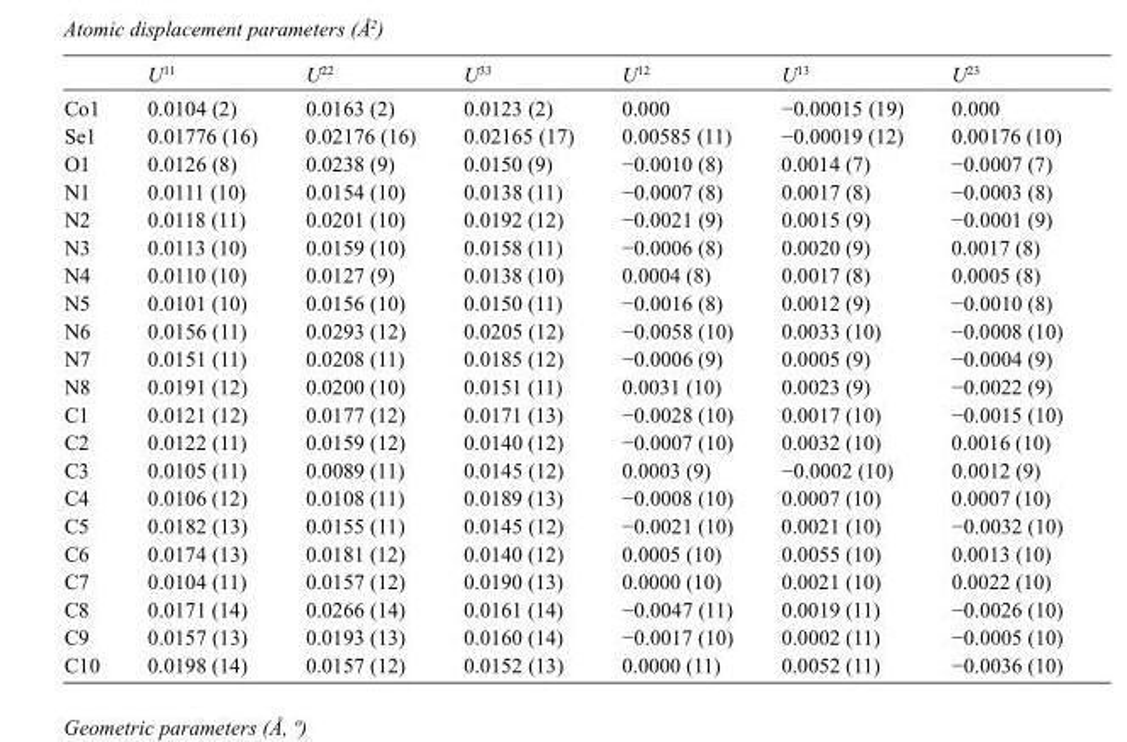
<table><thead><tr><td></td><td>U<sup>11</sup></td><td>U<sup>22</sup></td><td>U<sup>33</sup></td><td>U<sup>12</sup></td><td>U<sup>13</sup></td><td>U<sup>23</sup></td></tr></thead><tbody><tr><td>Co1</td><td>0.0104 (2)</td><td>0.0163 (2)</td><td>0.0123 (2)</td><td>0.000</td><td>−0.00015 (19)</td><td>0.000</td></tr><tr><td>Se1</td><td>0.01776 (16)</td><td>0.02176 (16)</td><td>0.02165 (17)</td><td>0.00585 (11)</td><td>−0.00019 (12)</td><td>0.00176 (10)</td></tr><tr><td>O1</td><td>0.0126 (8)</td><td>0.0238 (9)</td><td>0.0150 (9)</td><td>−0.0010 (8)</td><td>0.0014 (7)</td><td>−0.0007 (7)</td></tr><tr><td>N1</td><td>0.0111 (10)</td><td>0.0154 (10)</td><td>0.0138 (11)</td><td>−0.0007 (8)</td><td>0.0017 (8)</td><td>−0.0003 (8)</td></tr><tr><td>N2</td><td>0.0118 (11)</td><td>0.0201 (10)</td><td>0.0192 (12)</td><td>−0.0021 (9)</td><td>0.0015 (9)</td><td>−0.0001 (9)</td></tr><tr><td>N3</td><td>0.0113 (10)</td><td>0.0159 (10)</td><td>0.0158 (11)</td><td>−0.0006 (8)</td><td>0.0020 (9)</td><td>0.0017 (8)</td></tr><tr><td>N4</td><td>0.0110 (10)</td><td>0.0127 (9)</td><td>0.0138 (10)</td><td>0.0004 (8)</td><td>0.0017 (8)</td><td>0.0005 (8)</td></tr><tr><td>N5</td><td>0.0101 (10)</td><td>0.0156 (10)</td><td>0.0150 (11)</td><td>−0.0016 (8)</td><td>0.0012 (9)</td><td>−0.0010 (8)</td></tr><tr><td>N6</td><td>0.0156 (11)</td><td>0.0293 (12)</td><td>0.0205 (12)</td><td>−0.0058 (10)</td><td>0.0033 (10)</td><td>−0.0008 (10)</td></tr><tr><td>N7</td><td>0.0151 (11)</td><td>0.0208 (11)</td><td>0.0185 (12)</td><td>−0.0006 (9)</td><td>0.0005 (9)</td><td>−0.0004 (9)</td></tr><tr><td>N8</td><td>0.0191 (12)</td><td>0.0200 (10)</td><td>0.0151 (11)</td><td>0.0031 (10)</td><td>0.0023 (9)</td><td>−0.0022 (9)</td></tr><tr><td>C1</td><td>0.0121 (12)</td><td>0.0177 (12)</td><td>0.0171 (13)</td><td>−0.0028 (10)</td><td>0.0017 (10)</td><td>−0.0015 (10)</td></tr><tr><td>C2</td><td>0.0122 (11)</td><td>0.0159 (12)</td><td>0.0140 (12)</td><td>−0.0007 (10)</td><td>0.0032 (10)</td><td>0.0016 (10)</td></tr><tr><td>C3</td><td>0.0105 (11)</td><td>0.0089 (11)</td><td>0.0145 (12)</td><td>0.0003 (9)</td><td>−0.0002 (10)</td><td>0.0012 (9)</td></tr><tr><td>C4</td><td>0.0106 (12)</td><td>0.0108 (11)</td><td>0.0189 (13)</td><td>−0.0008 (10)</td><td>0.0007 (10)</td><td>0.0007 (10)</td></tr><tr><td>C5</td><td>0.0182 (13)</td><td>0.0155 (11)</td><td>0.0145 (12)</td><td>−0.0021 (10)</td><td>0.0021 (10)</td><td>−0.0032 (10)</td></tr><tr><td>C6</td><td>0.0174 (13)</td><td>0.0181 (12)</td><td>0.0140 (12)</td><td>0.0005 (10)</td><td>0.0055 (10)</td><td>0.0013 (10)</td></tr><tr><td>C7</td><td>0.0104 (11)</td><td>0.0157 (12)</td><td>0.0190 (13)</td><td>0.0000 (10)</td><td>0.0021 (10)</td><td>0.0022 (10)</td></tr><tr><td>C8</td><td>0.0171 (14)</td><td>0.0266 (14)</td><td>0.0161 (14)</td><td>−0.0047 (11)</td><td>0.0019 (11)</td><td>−0.0026 (10)</td></tr><tr><td>C9</td><td>0.0157 (13)</td><td>0.0193 (13)</td><td>0.0160 (14)</td><td>−0.0017 (10)</td><td>0.0002 (11)</td><td>−0.0005 (10)</td></tr><tr><td>C10</td><td>0.0198 (14)</td><td>0.0157 (12)</td><td>0.0152 (13)</td><td>0.0000 (11)</td><td>0.0052 (11)</td><td>−0.0036 (10)</td></tr></tbody></table>